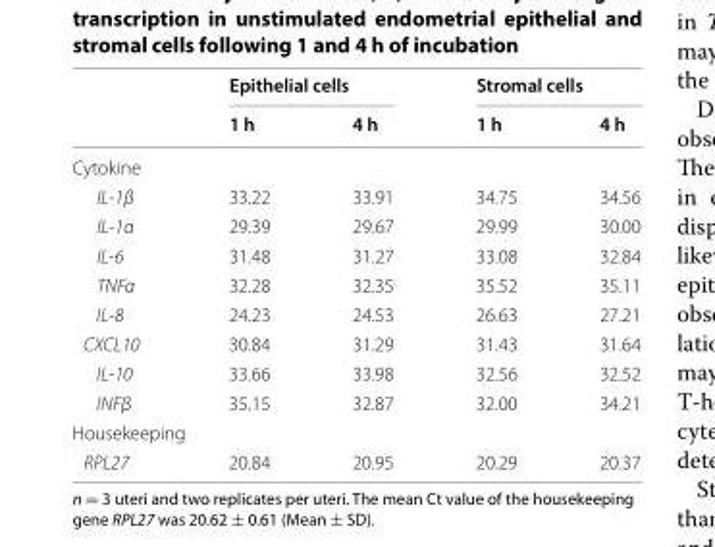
<table><thead><tr><td rowspan="2"></td><td colspan="2">Epithelial cells</td><td colspan="2">Stromal cells</td></tr><tr><td>1 h</td><td>4 h</td><td>1 h</td><td>4 h</td></tr></thead><tbody><tr><td colspan="5">Cytokine</td></tr><tr><td>IL‑1β</td><td>33.22</td><td>33.91</td><td>34.75</td><td>34.56</td></tr><tr><td>IL‑1α</td><td>29.39</td><td>29.67</td><td>29.99</td><td>30.00</td></tr><tr><td>IL‑6</td><td>31.48</td><td>31.27</td><td>33.08</td><td>32.84</td></tr><tr><td>TNFα</td><td>32.28</td><td>32.35</td><td>35.52</td><td>35.11</td></tr><tr><td>IL‑8</td><td>24.23</td><td>24.53</td><td>26.63</td><td>27.21</td></tr><tr><td>CXCL10</td><td>30.84</td><td>31.29</td><td>31.43</td><td>31.64</td></tr><tr><td>IL‑10</td><td>33.66</td><td>33.98</td><td>32.56</td><td>32.52</td></tr><tr><td>INFβ</td><td>35.15</td><td>32.87</td><td>32.00</td><td>34.21</td></tr><tr><td colspan="5">Housekeeping</td></tr><tr><td>RPL27</td><td>20.84</td><td>20.95</td><td>20.29</td><td>20.37</td></tr></tbody></table>